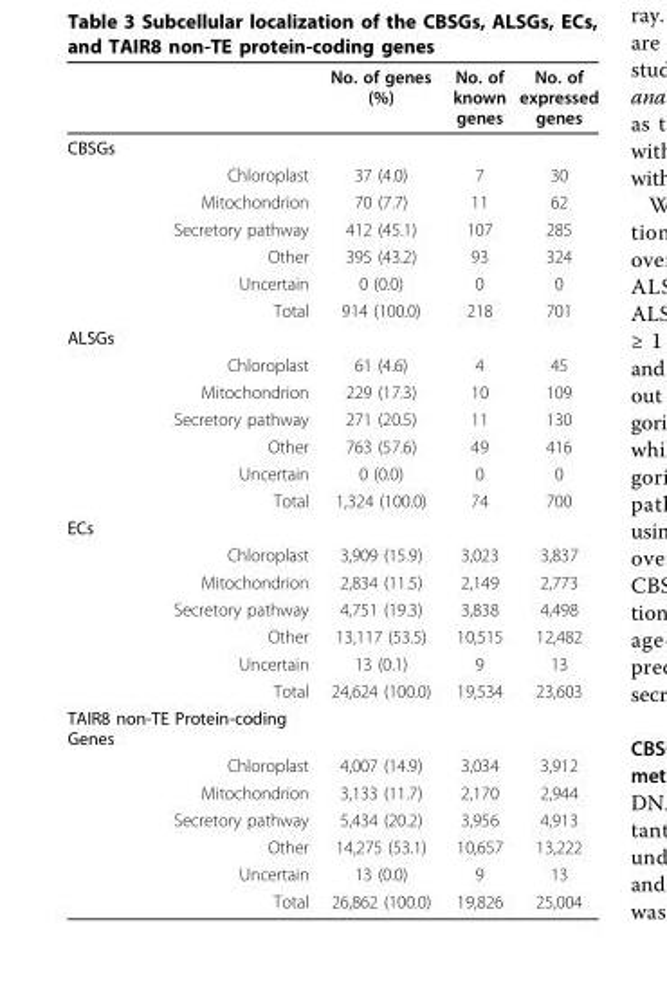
<table><thead><tr><td></td><td>No. of genes (%)</td><td>No. of known genes</td><td>No. of expressed genes</td></tr></thead><tbody><tr><td colspan="4">CBSGs</td></tr><tr><td>Chloroplast</td><td>37 (4.0)</td><td>7</td><td>30</td></tr><tr><td>Mitochondrion</td><td>70 (7.7)</td><td>11</td><td>62</td></tr><tr><td>Secretory pathway</td><td>412 (45.1)</td><td>107</td><td>285</td></tr><tr><td>Other</td><td>395 (43.2)</td><td>93</td><td>324</td></tr><tr><td>Uncertain</td><td>0 (0.0)</td><td>0</td><td>0</td></tr><tr><td>Total</td><td>914 (100.0)</td><td>218</td><td>701</td></tr><tr><td colspan="4">ALSGs</td></tr><tr><td>Chloroplast</td><td>61 (4.6)</td><td>4</td><td>45</td></tr><tr><td>Mitochondrion</td><td>229 (17.3)</td><td>10</td><td>109</td></tr><tr><td>Secretory pathway</td><td>271 (20.5)</td><td>11</td><td>130</td></tr><tr><td>Other</td><td>763 (57.6)</td><td>49</td><td>416</td></tr><tr><td>Uncertain</td><td>0 (0.0)</td><td>0</td><td>0</td></tr><tr><td>Total</td><td>1,324 (100.0)</td><td>74</td><td>700</td></tr><tr><td colspan="4">ECs</td></tr><tr><td>Chloroplast</td><td>3,909 (15.9)</td><td>3,023</td><td>3,837</td></tr><tr><td>Mitochondrion</td><td>2,834 (11.5)</td><td>2,149</td><td>2,773</td></tr><tr><td>Secretory pathway</td><td>4,751 (19.3)</td><td>3,838</td><td>4,498</td></tr><tr><td>Other</td><td>13,117 (53.5)</td><td>10,515</td><td>12,482</td></tr><tr><td>Uncertain</td><td>13 (0.1)</td><td>9</td><td>13</td></tr><tr><td>Total</td><td>24,624 (100.0)</td><td>19,534</td><td>23,603</td></tr><tr><td colspan="4">TAIR8 non-TE Protein-coding Genes</td></tr><tr><td>Chloroplast</td><td>4,007 (14.9)</td><td>3,034</td><td>3,912</td></tr><tr><td>Mitochondrion</td><td>3,133 (11.7)</td><td>2,170</td><td>2,944</td></tr><tr><td>Secretory pathway</td><td>5,434 (20.2)</td><td>3,956</td><td>4,913</td></tr><tr><td>Other</td><td>14,275 (53.1)</td><td>10,657</td><td>13,222</td></tr><tr><td>Uncertain</td><td>13 (0.0)</td><td>9</td><td>13</td></tr><tr><td>Total</td><td>26,862 (100.0)</td><td>19,826</td><td>25,004</td></tr></tbody></table>